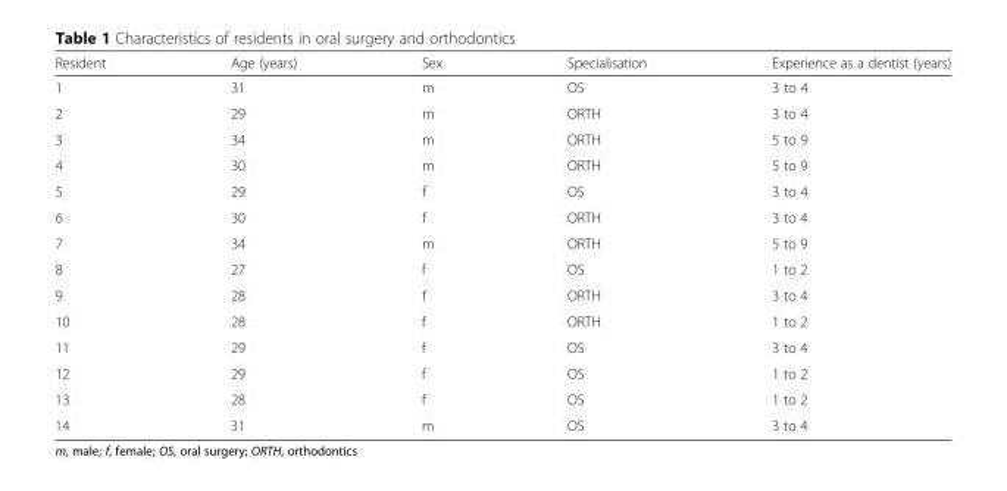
<table><thead><tr><td>Resident</td><td>Age (years)</td><td>Sex</td><td>Specialisation</td><td>Experience as a dentist (years)</td></tr></thead><tbody><tr><td>1</td><td>31</td><td>m</td><td>OS</td><td>3 to 4</td></tr><tr><td>2</td><td>29</td><td>m</td><td>ORTH</td><td>3 to 4</td></tr><tr><td>3</td><td>34</td><td>m</td><td>ORTH</td><td>5 to 9</td></tr><tr><td>4</td><td>30</td><td>m</td><td>ORTH</td><td>5 to 9</td></tr><tr><td>5</td><td>29</td><td>f</td><td>OS</td><td>3 to 4</td></tr><tr><td>6</td><td>30</td><td>f</td><td>ORTH</td><td>3 to 4</td></tr><tr><td>7</td><td>34</td><td>m</td><td>ORTH</td><td>5 to 9</td></tr><tr><td>8</td><td>27</td><td>f</td><td>OS</td><td>1 to 2</td></tr><tr><td>9</td><td>28</td><td>f</td><td>ORTH</td><td>3 to 4</td></tr><tr><td>10</td><td>28</td><td>f</td><td>ORTH</td><td>1 to 2</td></tr><tr><td>11</td><td>29</td><td>f</td><td>OS</td><td>3 to 4</td></tr><tr><td>12</td><td>29</td><td>f</td><td>OS</td><td>1 to 2</td></tr><tr><td>13</td><td>28</td><td>f</td><td>OS</td><td>1 to 2</td></tr><tr><td>14</td><td>31</td><td>m</td><td>OS</td><td>3 to 4</td></tr></tbody></table>